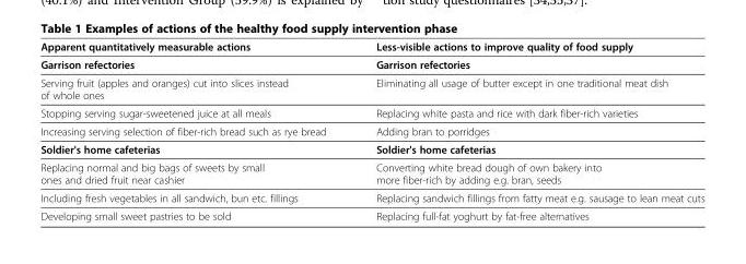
<table><thead><tr><td>Apparent quantitatively measurable actions</td><td>Less-visible actions to improve quality of food supply</td></tr></thead><tbody><tr><td>Garrison refectories</td><td>Garrison refectories</td></tr><tr><td>Serving fruit (apples and oranges) cut into slices instead of whole ones</td><td>Eliminating all usage of butter except in one traditional meat dish</td></tr><tr><td>Stopping serving sugar-sweetened juice at all meals</td><td>Replacing white pasta and rice with dark fiber-rich varieties</td></tr><tr><td>Increasing serving selection of fiber-rich bread such as rye bread</td><td>Adding bran to porridges</td></tr><tr><td>Soldier&#x27;s home cafeterias</td><td>Soldier&#x27;s home cafeterias</td></tr><tr><td>Replacing normal and big bags of sweets by small ones and dried fruit near cashier</td><td>Converting white bread dough of own bakery into more fiber-rich by adding e.g. bran, seeds</td></tr><tr><td>Including fresh vegetables in all sandwich, bun etc. fillings</td><td>Replacing sandwich fillings from fatty meat e.g. sausage to lean meat cuts</td></tr><tr><td>Developing small sweet pastries to be sold</td><td>Replacing full-fat yoghurt by fat-free alternatives</td></tr></tbody></table>